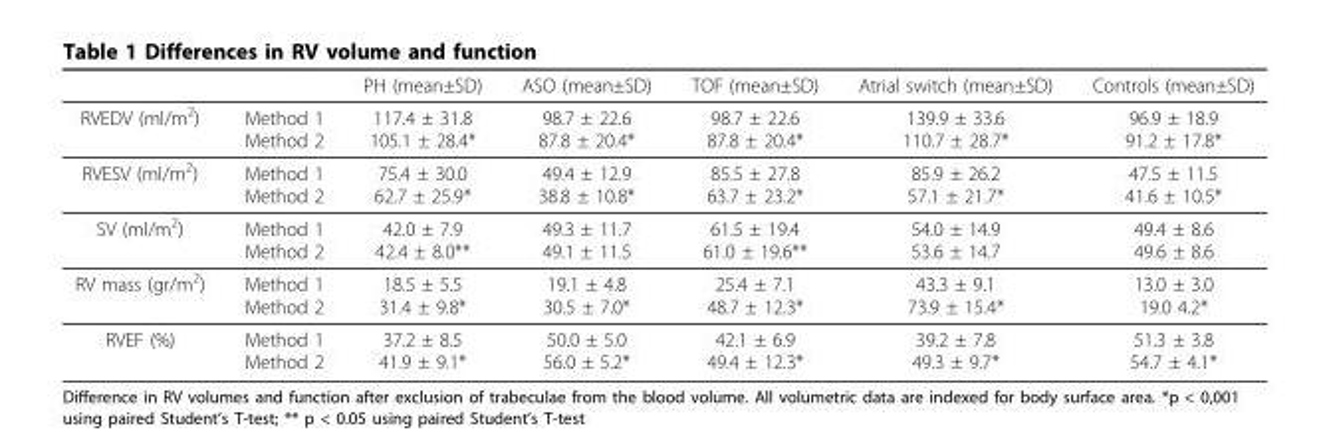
<table><thead><tr><td></td><td></td><td>PH (mean±SD)</td><td>ASO (mean±SD)</td><td>TOF (mean±SD)</td><td>Atrial switch (mean±SD)</td><td>Controls (mean±SD)</td></tr></thead><tbody><tr><td>RVEDV (ml/m<sup>2</sup>)</td><td>Method 1 Method 2</td><td>117.4 ± 31.8 105.1 ± 28.4*</td><td>98.7 ± 22.6 87.8 ± 20.4*</td><td>98.7 ± 22.6 87.8 ± 20.4*</td><td>139.9 ± 33.6 110.7 ± 28.7*</td><td>96.9 ± 18.9 91.2 ± 17.8*</td></tr><tr><td>RVESV (ml/m<sup>2</sup>)</td><td>Method 1 Method 2</td><td>75.4 ± 30.0 62.7 ± 25.9*</td><td>49.4 ± 12.9 38.8 ± 10.8*</td><td>85.5 ± 27.8 63.7 ± 23.2*</td><td>85.9 ± 26.2 57.1 ± 21.7*</td><td>47.5 ± 11.5 41.6 ± 10.5*</td></tr><tr><td>SV (ml/m<sup>2</sup>)</td><td>Method 1 Method 2</td><td>42.0 ± 7.9 42.4 ± 8.0**</td><td>49.3 ± 11.7 49.1 ± 11.5</td><td>61.5 ± 19.4 61.0 ± 19.6**</td><td>54.0 ± 14.9 53.6 ± 14.7</td><td>49.4 ± 8.6 49.6 ± 8.6</td></tr><tr><td>RV mass (gr/m<sup>2</sup>)</td><td>Method 1 Method 2</td><td>18.5 ± 5.5 31.4 ± 9.8*</td><td>19.1 ± 4.8 30.5 ± 7.0*</td><td>25.4 ± 7.1 48.7 ± 12.3*</td><td>43.3 ± 9.1 73.9 ± 15.4*</td><td>13.0 ± 3.0 19.0 4.2*</td></tr><tr><td>RVEF (%)</td><td>Method 1 Method 2</td><td>37.2 ± 8.5 41.9 ± 9.1*</td><td>50.0 ± 5.0 56.0 ± 5.2*</td><td>42.1 ± 6.9 49.4 ± 12.3*</td><td>39.2 ± 7.8 49.3 ± 9.7*</td><td>51.3 ± 3.8 54.7 ± 4.1*</td></tr></tbody></table>